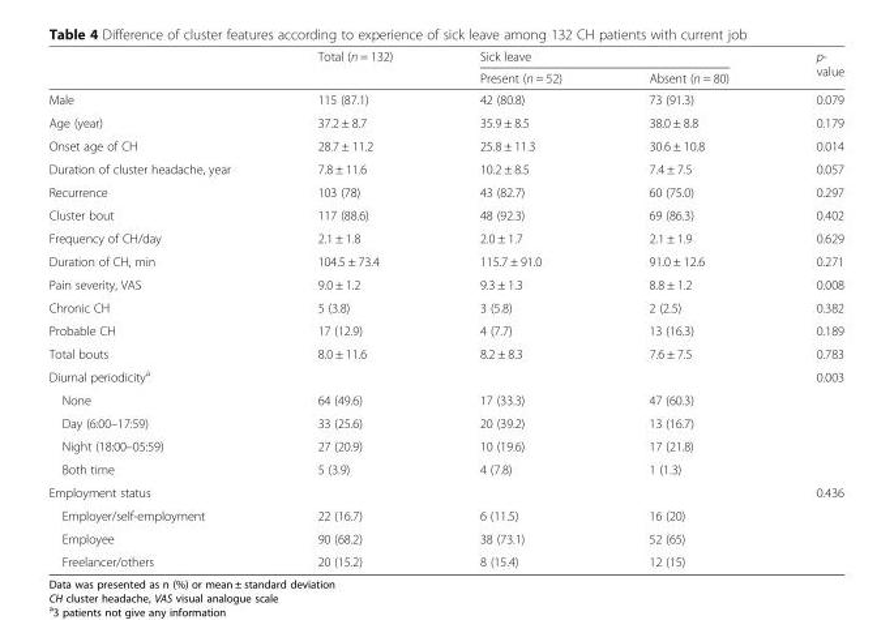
<table><thead><tr><td rowspan="2"></td><td rowspan="2">Total (n = 132)</td><td colspan="2">Sick leave</td><td rowspan="2">p- value</td></tr><tr><td>Present (n = 52)</td><td>Absent (n = 80)</td></tr></thead><tbody><tr><td>Male</td><td>115 (87.1)</td><td>42 (80.8)</td><td>73 (91.3)</td><td>0.079</td></tr><tr><td>Age (year)</td><td>37.2 ± 8.7</td><td>35.9 ± 8.5</td><td>38.0 ± 8.8</td><td>0.179</td></tr><tr><td>Onset age of CH</td><td>28.7 ± 11.2</td><td>25.8 ± 11.3</td><td>30.6 ± 10.8</td><td>0.014</td></tr><tr><td>Duration of cluster headache, year</td><td>7.8 ± 11.6</td><td>10.2 ± 8.5</td><td>7.4 ± 7.5</td><td>0.057</td></tr><tr><td>Recurrence</td><td>103 (78)</td><td>43 (82.7)</td><td>60 (75.0)</td><td>0.297</td></tr><tr><td>Cluster bout</td><td>117 (88.6)</td><td>48 (92.3)</td><td>69 (86.3)</td><td>0.402</td></tr><tr><td>Frequency of CH/day</td><td>2.1 ± 1.8</td><td>2.0 ± 1.7</td><td>2.1 ± 1.9</td><td>0.629</td></tr><tr><td>Duration of CH, min</td><td>104.5 ± 73.4</td><td>115.7 ± 91.0</td><td>91.0 ± 12.6</td><td>0.271</td></tr><tr><td>Pain severity, VAS</td><td>9.0 ± 1.2</td><td>9.3 ± 1.3</td><td>8.8 ± 1.2</td><td>0.008</td></tr><tr><td>Chronic CH</td><td>5 (3.8)</td><td>3 (5.8)</td><td>2 (2.5)</td><td>0.382</td></tr><tr><td>Probable CH</td><td>17 (12.9)</td><td>4 (7.7)</td><td>13 (16.3)</td><td>0.189</td></tr><tr><td>Total bouts</td><td>8.0 ± 11.6</td><td>8.2 ± 8.3</td><td>7.6 ± 7.5</td><td>0.783</td></tr><tr><td>Diurnal periodicity<sup>a</sup></td><td></td><td></td><td></td><td>0.003</td></tr><tr><td>None</td><td>64 (49.6)</td><td>17 (33.3)</td><td>47 (60.3)</td><td></td></tr><tr><td>Day (6:00–17:59)</td><td>33 (25.6)</td><td>20 (39.2)</td><td>13 (16.7)</td><td></td></tr><tr><td>Night (18:00–05:59)</td><td>27 (20.9)</td><td>10 (19.6)</td><td>17 (21.8)</td><td></td></tr><tr><td>Both time</td><td>5 (3.9)</td><td>4 (7.8)</td><td>1 (1.3)</td><td></td></tr><tr><td>Employment status</td><td></td><td></td><td></td><td>0.436</td></tr><tr><td>Employer/self-employment</td><td>22 (16.7)</td><td>6 (11.5)</td><td>16 (20)</td><td></td></tr><tr><td>Employee</td><td>90 (68.2)</td><td>38 (73.1)</td><td>52 (65)</td><td></td></tr><tr><td>Freelancer/others</td><td>20 (15.2)</td><td>8 (15.4)</td><td>12 (15)</td><td></td></tr></tbody></table>